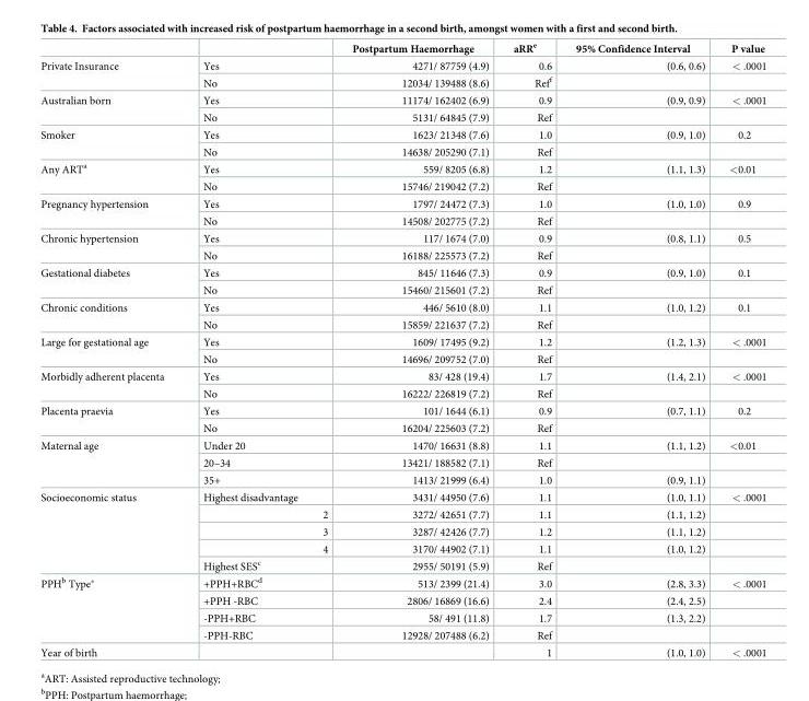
<table><thead><tr><td></td><td></td><td>Postpartum Haemorrhage</td><td>aRR<sup>e</sup></td><td>95% Confidence Interval</td><td>P value</td></tr></thead><tbody><tr><td rowspan="2">Private Insurance</td><td>Yes</td><td>4271/ 87759 (4.9)</td><td>0.6</td><td>(0.6, 0.6)</td><td>&lt; .0001</td></tr><tr><td>No</td><td>12034/ 139488 (8.6)</td><td>Ref<sup>f</sup></td><td></td><td></td></tr><tr><td rowspan="2">Australian born</td><td>Yes</td><td>11174/ 162402 (6.9)</td><td>0.9</td><td>(0.9, 0.9)</td><td>&lt; .0001</td></tr><tr><td>No</td><td>5131/ 64845 (7.9)</td><td>Ref</td><td></td><td></td></tr><tr><td rowspan="2">Smoker</td><td>Yes</td><td>1623/ 21348 (7.6)</td><td>1.0</td><td>(0.9, 1.0)</td><td>0.2</td></tr><tr><td>No</td><td>14638/ 205290 (7.1)</td><td>Ref</td><td></td><td></td></tr><tr><td rowspan="2">Any ART<sup>a</sup></td><td>Yes</td><td>559/ 8205 (6.8)</td><td>1.2</td><td>(1.1, 1.3)</td><td>&lt;0.01</td></tr><tr><td>No</td><td>15746/ 219042 (7.2)</td><td>Ref</td><td></td><td></td></tr><tr><td rowspan="2">Pregnancy hypertension</td><td>Yes</td><td>1797/ 24472 (7.3)</td><td>1.0</td><td>(1.0, 1.0)</td><td>0.9</td></tr><tr><td>No</td><td>14508/ 202775 (7.2)</td><td>Ref</td><td></td><td></td></tr><tr><td rowspan="2">Chronic hypertension</td><td>Yes</td><td>117/ 1674 (7.0)</td><td>0.9</td><td>(0.8, 1.1)</td><td>0.5</td></tr><tr><td>No</td><td>16188/ 225573 (7.2)</td><td>Ref</td><td></td><td></td></tr><tr><td rowspan="2">Gestational diabetes</td><td>Yes</td><td>845/ 11646 (7.3)</td><td>0.9</td><td>(0.9, 1.0)</td><td>0.1</td></tr><tr><td>No</td><td>15460/ 215601 (7.2)</td><td>Ref</td><td></td><td></td></tr><tr><td rowspan="2">Chronic conditions</td><td>Yes</td><td>446/ 5610 (8.0)</td><td>1.1</td><td>(1.0, 1.2)</td><td>0.1</td></tr><tr><td>No</td><td>15859/ 221637 (7.2)</td><td>Ref</td><td></td><td></td></tr><tr><td rowspan="2">Large for gestational age</td><td>Yes</td><td>1609/ 17495 (9.2)</td><td>1.2</td><td>(1.2, 1.3)</td><td>&lt; .0001</td></tr><tr><td>No</td><td>14696/ 209752 (7.0)</td><td>Ref</td><td></td><td></td></tr><tr><td rowspan="2">Morbidly adherent placenta</td><td>Yes</td><td>83/ 428 (19.4)</td><td>1.7</td><td>(1.4, 2.1)</td><td>&lt; .0001</td></tr><tr><td>No</td><td>16222/ 226819 (7.2)</td><td>Ref</td><td></td><td></td></tr><tr><td rowspan="2">Placenta praevia</td><td>Yes</td><td>101/ 1644 (6.1)</td><td>0.9</td><td>(0.7, 1.1)</td><td>0.2</td></tr><tr><td>No</td><td>16204/ 225603 (7.2)</td><td>Ref</td><td></td><td></td></tr><tr><td rowspan="3">Maternal age</td><td>Under 20</td><td>1470/ 16631 (8.8)</td><td>1.1</td><td>(1.1, 1.2)</td><td>&lt;0.01</td></tr><tr><td>20–34</td><td>13421/ 188582 (7.1)</td><td>Ref</td><td></td><td></td></tr><tr><td>35+</td><td>1413/ 21999 (6.4)</td><td>1.0</td><td>(0.9, 1.1)</td><td></td></tr><tr><td rowspan="5">Socioeconomic status</td><td>Highest disadvantage</td><td>3431/ 44950 (7.6)</td><td>1.1</td><td>(1.0, 1.1)</td><td>&lt; .0001</td></tr><tr><td>2</td><td>3272/ 42651 (7.7)</td><td>1.1</td><td>(1.1, 1.2)</td><td></td></tr><tr><td>3</td><td>3287/ 42426 (7.7)</td><td>1.2</td><td>(1.1, 1.2)</td><td></td></tr><tr><td>4</td><td>3170/ 44902 (7.1)</td><td>1.1</td><td>(1.0, 1.2)</td><td></td></tr><tr><td>Highest SES<sup>c</sup></td><td>2955/ 50191 (5.9)</td><td>Ref</td><td></td><td></td></tr><tr><td rowspan="4">PPH<sup>b</sup> Type*</td><td>+PPH+RBC<sup>d</sup></td><td>513/ 2399 (21.4)</td><td>3.0</td><td>(2.8, 3.3)</td><td>&lt; .0001</td></tr><tr><td>+PPH -RBC</td><td>2806/ 16869 (16.6)</td><td>2.4</td><td>(2.4, 2.5)</td><td></td></tr><tr><td>-PPH+RBC</td><td>58/ 491 (11.8)</td><td>1.7</td><td>(1.3, 2.2)</td><td></td></tr><tr><td>-PPH-RBC</td><td>12928/ 207488 (6.2)</td><td>Ref</td><td></td><td></td></tr><tr><td>Year of birth</td><td></td><td></td><td>1</td><td>(1.0, 1.0)</td><td>&lt; .0001</td></tr></tbody></table>